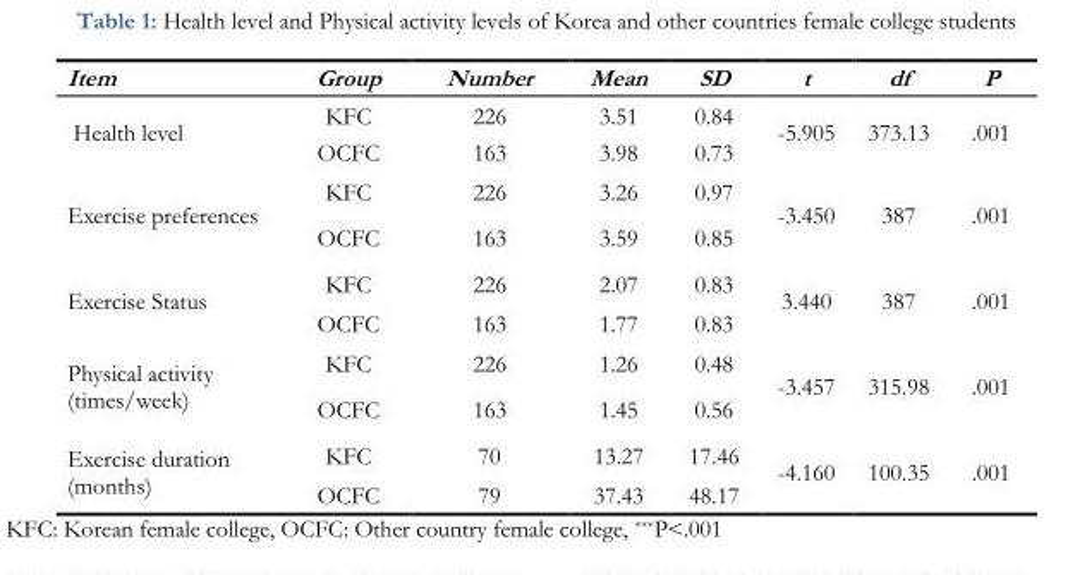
<table><thead><tr><td>Item</td><td>Group</td><td>Number</td><td>Mean</td><td>SD</td><td>t</td><td>df</td><td>P</td></tr></thead><tbody><tr><td rowspan="2">Health level</td><td>KFC</td><td>226</td><td>3.51</td><td>0.84</td><td rowspan="2">-5.905</td><td rowspan="2">373.13</td><td rowspan="2">.001</td></tr><tr><td>OCFC</td><td>163</td><td>3.98</td><td>0.73</td></tr><tr><td rowspan="2">Exercise preferences</td><td>KFC</td><td>226</td><td>3.26</td><td>0.97</td><td rowspan="2">-3.450</td><td rowspan="2">387</td><td rowspan="2">.001</td></tr><tr><td>OCFC</td><td>163</td><td>3.59</td><td>0.85</td></tr><tr><td rowspan="2">Exercise Status</td><td>KFC</td><td>226</td><td>2.07</td><td>0.83</td><td rowspan="2">3.440</td><td rowspan="2">387</td><td rowspan="2">.001</td></tr><tr><td>OCFC</td><td>163</td><td>1.77</td><td>0.83</td></tr><tr><td rowspan="2">Physical activity (times/week)</td><td>KFC</td><td>226</td><td>1.26</td><td>0.48</td><td rowspan="2">-3.457</td><td rowspan="2">315.98</td><td rowspan="2">.001</td></tr><tr><td>OCFC</td><td>163</td><td>1.45</td><td>0.56</td></tr><tr><td rowspan="2">Exercise duration (months)</td><td>KFC</td><td>70</td><td>13.27</td><td>17.46</td><td rowspan="2">-4.160</td><td rowspan="2">100.35</td><td rowspan="2">.001</td></tr><tr><td>OCFC</td><td>79</td><td>37.43</td><td>48.17</td></tr></tbody></table>